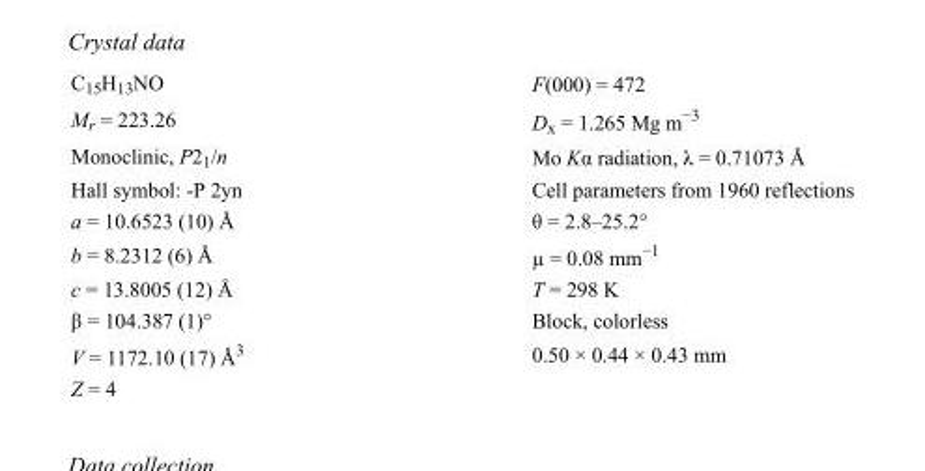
<table><tbody><tr><td>C<sub>15</sub>H<sub>13</sub>NO</td><td>F(000) = 472</td></tr><tr><td>M<sub>r</sub> = 223.26</td><td>D<sub>x</sub> = 1.265 Mg m<sup>−3</sup></td></tr><tr><td>Monoclinic, P2<sub>1</sub>/n</td><td>Mo Kα radiation, λ = 0.71073 Å</td></tr><tr><td>Hall symbol: -P 2yn</td><td>Cell parameters from 1960 reflections</td></tr><tr><td>a = 10.6523 (10) Å</td><td>θ = 2.8–25.2°</td></tr><tr><td>b = 8.2312 (6) Å</td><td>µ = 0.08 mm<sup>−1</sup></td></tr><tr><td>c = 13.8005 (12) Å</td><td>T = 298 K</td></tr><tr><td>β = 104.387 (1)°</td><td>Block, colorless</td></tr><tr><td>V = 1172.10 (17) Å<sup>3</sup></td><td>0.50 × 0.44 × 0.43 mm</td></tr><tr><td>Z = 4</td><td></td></tr></tbody></table>